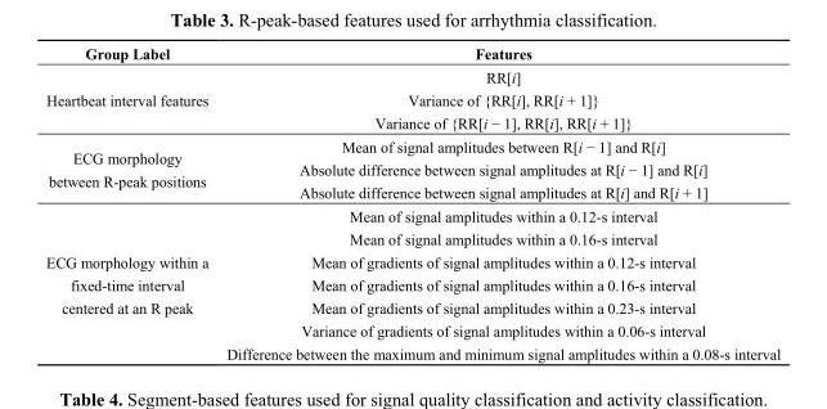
<table><thead><tr><td>Group Label</td><td>Features</td></tr></thead><tbody><tr><td rowspan="3">Heartbeat interval features</td><td>RR[i]</td></tr><tr><td>Variance of {RR[i], RR[i + 1]}</td></tr><tr><td>Variance of {RR[i − 1], RR[i], RR[i + 1]}</td></tr><tr><td rowspan="3">ECG morphology between R-peak positions</td><td>Mean of signal amplitudes between R[i − 1] and R[i]</td></tr><tr><td>Absolute difference between signal amplitudes at R[i − 1] and R[i]</td></tr><tr><td>Absolute difference between signal amplitudes at R[i] and R[i + 1]</td></tr><tr><td rowspan="7">ECG morphology within a fixed-time interval centered at an R peak</td><td>Mean of signal amplitudes within a 0.12-s interval</td></tr><tr><td>Mean of signal amplitudes within a 0.16-s interval</td></tr><tr><td>Mean of gradients of signal amplitudes within a 0.12-s interval</td></tr><tr><td>Mean of gradients of signal amplitudes within a 0.16-s interval</td></tr><tr><td>Mean of gradients of signal amplitudes within a 0.23-s interval</td></tr><tr><td>Variance of gradients of signal amplitudes within a 0.06-s interval</td></tr><tr><td>Difference between the maximum and minimum signal amplitudes within a 0.08-s interval</td></tr></tbody></table>